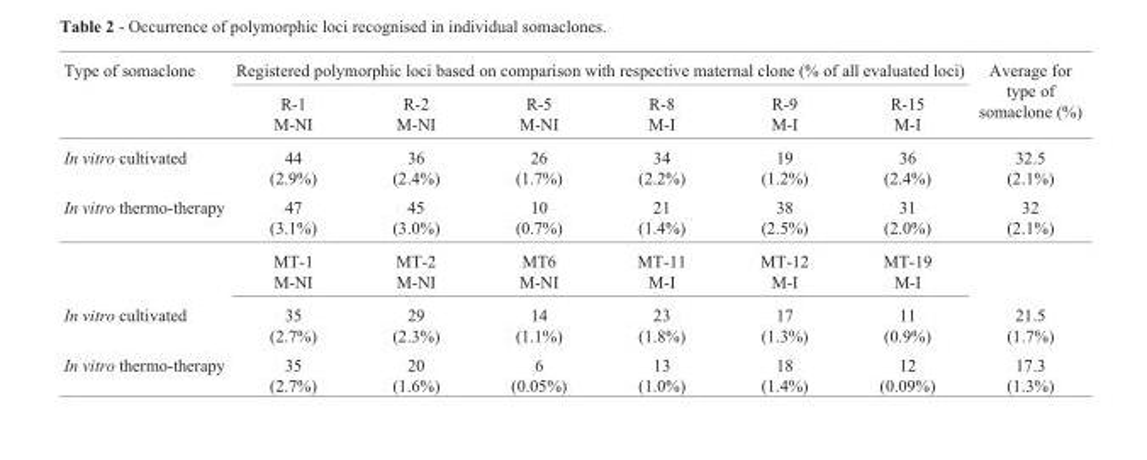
<table><thead><tr><td rowspan="2">Type of somaclone</td><td colspan="6">Registered polymorphic loci based on comparison with respective maternal clone (% of all evaluated loci)</td><td rowspan="2">Average for type of somaclone (%)</td></tr><tr><td>R-1 M-NI</td><td>R-2 M-NI</td><td>R-5 M-NI</td><td>R-8 M-I</td><td>R-9 M-I</td><td>R-15 M-I</td></tr></thead><tbody><tr><td>In vitro cultivated</td><td>44 (2.9%)</td><td>36 (2.4%)</td><td>26 (1.7%)</td><td>34 (2.2%)</td><td>19 (1.2%)</td><td>36 (2.4%)</td><td>32.5 (2.1%)</td></tr><tr><td rowspan="2">In vitro thermo-therapy</td><td>47 (3.1%)</td><td>45 (3.0%)</td><td>10 (0.7%)</td><td>21 (1.4%)</td><td>38 (2.5%)</td><td>31 (2.0%)</td><td>32 (2.1%)</td></tr><tr><td>MT-1 M-NI</td><td>MT-2 M-NI</td><td>MT6 M-NI</td><td>MT-11 M-I</td><td>MT-12 M-I</td><td>MT-19 M-I</td><td></td></tr><tr><td>In vitro cultivated</td><td>35 (2.7%)</td><td>29 (2.3%)</td><td>14 (1.1%)</td><td>23 (1.8%)</td><td>17 (1.3%)</td><td>11 (0.9%)</td><td>21.5 (1.7%)</td></tr><tr><td>In vitro thermo-therapy</td><td>35 (2.7%)</td><td>20 (1.6%)</td><td>6 (0.05%)</td><td>13 (1.0%)</td><td>18 (1.4%)</td><td>12 (0.09%)</td><td>17.3 (1.3%)</td></tr></tbody></table>